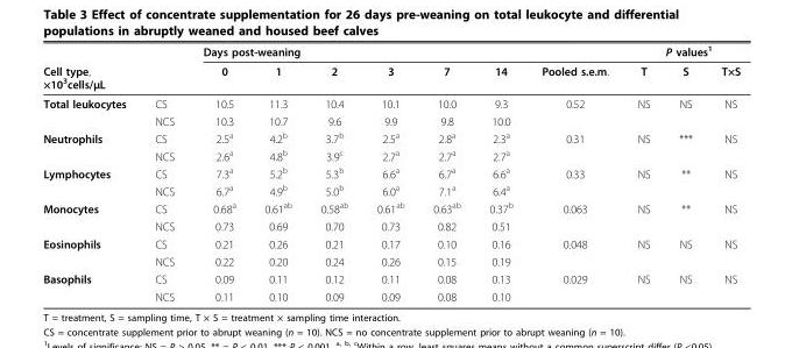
<table><thead><tr><td rowspan="2">Cell type, ×103cells/μL</td><td rowspan="2"></td><td colspan="6">Days post-weaning</td><td rowspan="2">Pooled s.e.m.</td><td colspan="3">P values1</td></tr><tr><td>0</td><td>1</td><td>2</td><td>3</td><td>7</td><td>14</td><td>T</td><td>S</td><td>T×S</td></tr></thead><tbody><tr><td rowspan="2">Total leukocytes</td><td>CS</td><td>10.5</td><td>11.3</td><td>10.4</td><td>10.1</td><td>10.0</td><td>9.3</td><td>0.52</td><td>NS</td><td>NS</td><td>NS</td></tr><tr><td>NCS</td><td>10.3</td><td>10.7</td><td>9.6</td><td>9.9</td><td>9.8</td><td>10.0</td><td></td><td></td><td></td><td></td></tr><tr><td rowspan="2">Neutrophils</td><td>CS</td><td>2.5<sup>a</sup></td><td>4.2<sup>b</sup></td><td>3.7<sup>b</sup></td><td>2.5<sup>a</sup></td><td>2.8<sup>a</sup></td><td>2.3<sup>a</sup></td><td>0.31</td><td>NS</td><td>***</td><td>NS</td></tr><tr><td>NCS</td><td>2.6<sup>a</sup></td><td>4.8<sup>b</sup></td><td>3.9<sup>c</sup></td><td>2.7<sup>a</sup></td><td>2.7<sup>a</sup></td><td>2.7<sup>a</sup></td><td></td><td></td><td></td><td></td></tr><tr><td rowspan="2">Lymphocytes</td><td>CS</td><td>7.3<sup>a</sup></td><td>5.2<sup>b</sup></td><td>5.3<sup>b</sup></td><td>6.6<sup>a</sup></td><td>6.7<sup>a</sup></td><td>6.6<sup>a</sup></td><td>0.33</td><td>NS</td><td>**</td><td>NS</td></tr><tr><td>NCS</td><td>6.7<sup>a</sup></td><td>4.9<sup>b</sup></td><td>5.0<sup>b</sup></td><td>6.0<sup>a</sup></td><td>7.1<sup>a</sup></td><td>6.4<sup>a</sup></td><td></td><td></td><td></td><td></td></tr><tr><td rowspan="2">Monocytes</td><td>CS</td><td>0.68<sup>a</sup></td><td>0.61<sup>ab</sup></td><td>0.58<sup>ab</sup></td><td>0.61<sup>ab</sup></td><td>0.63<sup>ab</sup></td><td>0.37<sup>b</sup></td><td>0.063</td><td>NS</td><td>**</td><td>NS</td></tr><tr><td>NCS</td><td>0.73</td><td>0.69</td><td>0.70</td><td>0.73</td><td>0.82</td><td>0.51</td><td></td><td></td><td></td><td></td></tr><tr><td rowspan="2">Eosinophils</td><td>CS</td><td>0.21</td><td>0.26</td><td>0.21</td><td>0.17</td><td>0.10</td><td>0.16</td><td>0.048</td><td>NS</td><td>NS</td><td>NS</td></tr><tr><td>NCS</td><td>0.22</td><td>0.20</td><td>0.24</td><td>0.26</td><td>0.15</td><td>0.19</td><td></td><td></td><td></td><td></td></tr><tr><td rowspan="2">Basophils</td><td>CS</td><td>0.09</td><td>0.11</td><td>0.12</td><td>0.11</td><td>0.08</td><td>0.13</td><td>0.029</td><td>NS</td><td>NS</td><td>NS</td></tr><tr><td>NCS</td><td>0.11</td><td>0.10</td><td>0.09</td><td>0.09</td><td>0.08</td><td>0.10</td><td></td><td></td><td></td><td></td></tr></tbody></table>